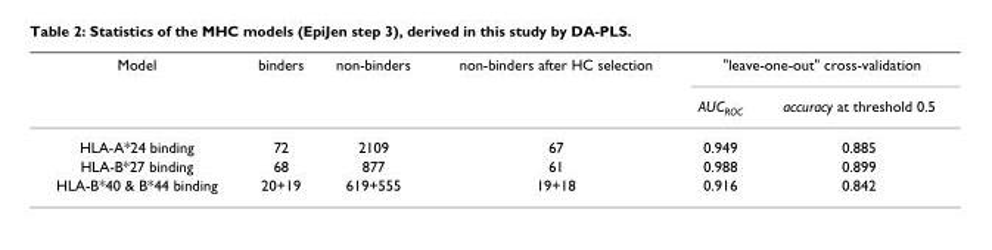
<table><thead><tr><td rowspan="2">Model</td><td rowspan="2">binders</td><td rowspan="2">non-binders</td><td rowspan="2">non-binders after HC selection</td><td colspan="2">&quot;leave-one-out&quot; cross-validation</td></tr><tr><td>AUCROC</td><td>accuracy at threshold 0.5</td></tr></thead><tbody><tr><td>HLA-A*24 binding</td><td>72</td><td>2109</td><td>67</td><td>0.949</td><td>0.885</td></tr><tr><td>HLA-B*27 binding</td><td>68</td><td>877</td><td>61</td><td>0.988</td><td>0.899</td></tr><tr><td>HLA-B*40 &amp; B*44 binding</td><td>20+19</td><td>619+555</td><td>19+18</td><td>0.916</td><td>0.842</td></tr></tbody></table>